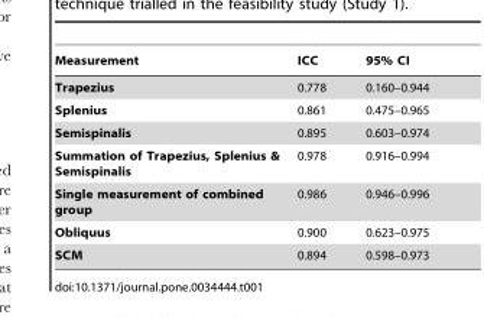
<table><thead><tr><td>Measurement</td><td>ICC</td><td>95% CI</td></tr></thead><tbody><tr><td>Trapezius</td><td>0.778</td><td>0.160–0.944</td></tr><tr><td>Splenius</td><td>0.861</td><td>0.475–0.965</td></tr><tr><td>Semispinalis</td><td>0.895</td><td>0.603–0.974</td></tr><tr><td>Summation of Trapezius, Splenius &amp; Semispinalis</td><td>0.978</td><td>0.916–0.994</td></tr><tr><td>Single measurement of combined group</td><td>0.986</td><td>0.946–0.996</td></tr><tr><td>Obliquus</td><td>0.900</td><td>0.623–0.975</td></tr><tr><td>SCM</td><td>0.894</td><td>0.598–0.973</td></tr></tbody></table>